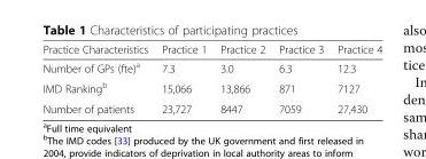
<table><thead><tr><td>Practice Characteristics</td><td>Practice 1</td><td>Practice 2</td><td>Practice 3</td><td>Practice 4</td></tr></thead><tbody><tr><td>Number of GPs (fte)<sup>a</sup></td><td>7.3</td><td>3.0</td><td>6.3</td><td>12.3</td></tr><tr><td>IMD Ranking<sup>b</sup></td><td>15,066</td><td>13,866</td><td>871</td><td>7127</td></tr><tr><td>Number of patients</td><td>23,727</td><td>8447</td><td>7059</td><td>27,430</td></tr></tbody></table>